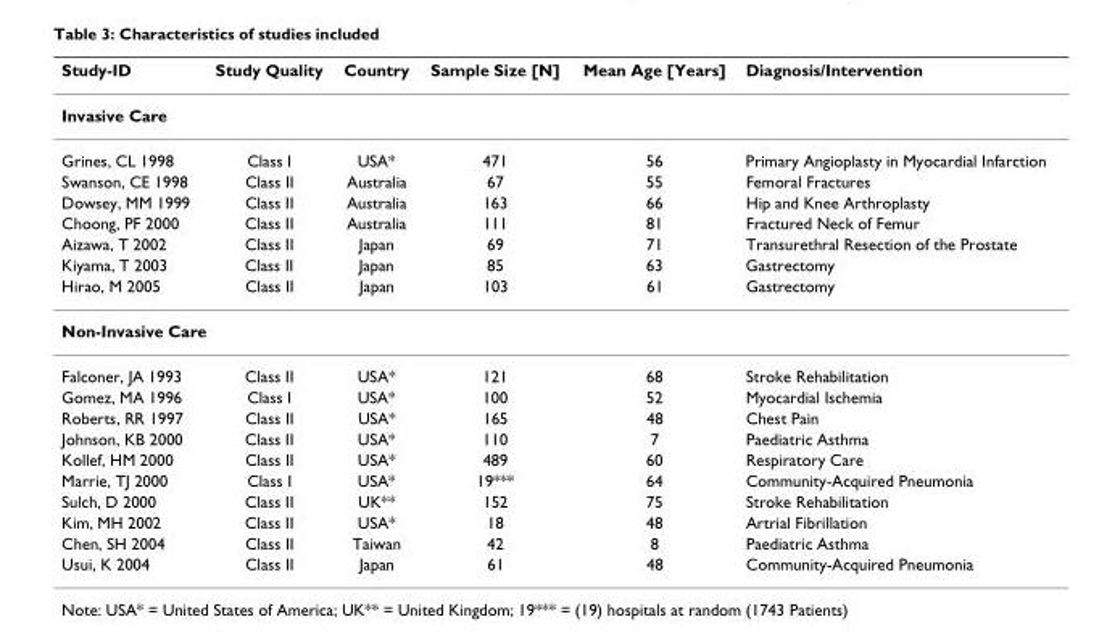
<table><thead><tr><td>Study-ID</td><td>Study Quality</td><td>Country</td><td>Sample Size [N]</td><td>Mean Age [Years]</td><td>Diagnosis/Intervention</td></tr></thead><tbody><tr><td colspan="6">Invasive Care</td></tr><tr><td>Grines, CL 1998</td><td>Class I</td><td>USA*</td><td>471</td><td>56</td><td>Primary Angioplasty in Myocardial Infarction</td></tr><tr><td>Swanson, CE 1998</td><td>Class II</td><td>Australia</td><td>67</td><td>55</td><td>Femoral Fractures</td></tr><tr><td>Dowsey, MM 1999</td><td>Class II</td><td>Australia</td><td>163</td><td>66</td><td>Hip and Knee Arthroplasty</td></tr><tr><td>Choong, PF 2000</td><td>Class II</td><td>Australia</td><td>111</td><td>81</td><td>Fractured Neck of Femur</td></tr><tr><td>Aizawa, T 2002</td><td>Class II</td><td>Japan</td><td>69</td><td>71</td><td>Transurethral Resection of the Prostate</td></tr><tr><td>Kiyama, T 2003</td><td>Class II</td><td>Japan</td><td>85</td><td>63</td><td>Gastrectomy</td></tr><tr><td>Hirao, M 2005</td><td>Class II</td><td>Japan</td><td>103</td><td>61</td><td>Gastrectomy</td></tr><tr><td colspan="6">Non-Invasive Care</td></tr><tr><td>Falconer, JA 1993</td><td>Class II</td><td>USA*</td><td>121</td><td>68</td><td>Stroke Rehabilitation</td></tr><tr><td>Gomez, MA 1996</td><td>Class I</td><td>USA*</td><td>100</td><td>52</td><td>Myocardial Ischemia</td></tr><tr><td>Roberts, RR 1997</td><td>Class II</td><td>USA*</td><td>165</td><td>48</td><td>Chest Pain</td></tr><tr><td>Johnson, KB 2000</td><td>Class II</td><td>USA*</td><td>110</td><td>7</td><td>Paediatric Asthma</td></tr><tr><td>Kollef, HM 2000</td><td>Class II</td><td>USA*</td><td>489</td><td>60</td><td>Respiratory Care</td></tr><tr><td>Marrie, TJ 2000</td><td>Class I</td><td>USA*</td><td>19***</td><td>64</td><td>Community-Acquired Pneumonia</td></tr><tr><td>Sulch, D 2000</td><td>Class II</td><td>UK**</td><td>152</td><td>75</td><td>Stroke Rehabilitation</td></tr><tr><td>Kim, MH 2002</td><td>Class II</td><td>USA*</td><td>18</td><td>48</td><td>Artrial Fibrillation</td></tr><tr><td>Chen, SH 2004</td><td>Class II</td><td>Taiwan</td><td>42</td><td>8</td><td>Paediatric Asthma</td></tr><tr><td>Usui, K 2004</td><td>Class II</td><td>Japan</td><td>61</td><td>48</td><td>Community-Acquired Pneumonia</td></tr></tbody></table>